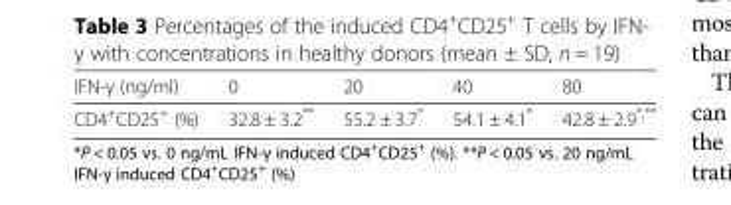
<table><thead><tr><td>IFN-γ (ng/ml)</td><td>0</td><td>20</td><td>40</td><td>80</td></tr></thead><tbody><tr><td>CD4<sup>+</sup>CD25<sup>+</sup> (%)</td><td>32.8 ± 3.2**</td><td>55.2 ± 3.7*</td><td>54.1 ± 4.1*</td><td>42.8 ± 2.9<sup>*,**</sup></td></tr></tbody></table>